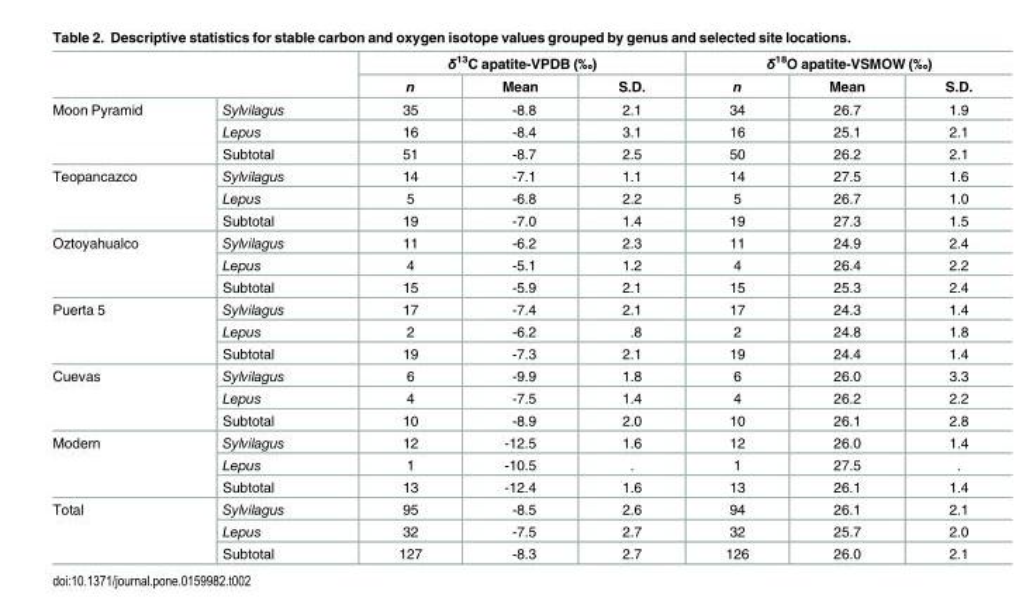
<table><thead><tr><td rowspan="2"></td><td rowspan="2"></td><td colspan="3">δ<sup>13</sup>C apatite-VPDB (‰)</td><td colspan="3">δ<sup>18</sup>O apatite-VSMOW (‰)</td></tr><tr><td>n</td><td>Mean</td><td>S.D.</td><td>n</td><td>Mean</td><td>S.D.</td></tr></thead><tbody><tr><td rowspan="3">Moon Pyramid</td><td>Sylvilagus</td><td>35</td><td>-8.8</td><td>2.1</td><td>34</td><td>26.7</td><td>1.9</td></tr><tr><td>Lepus</td><td>16</td><td>-8.4</td><td>3.1</td><td>16</td><td>25.1</td><td>2.1</td></tr><tr><td>Subtotal</td><td>51</td><td>-8.7</td><td>2.5</td><td>50</td><td>26.2</td><td>2.1</td></tr><tr><td rowspan="3">Teopancazco</td><td>Sylvilagus</td><td>14</td><td>-7.1</td><td>1.1</td><td>14</td><td>27.5</td><td>1.6</td></tr><tr><td>Lepus</td><td>5</td><td>-6.8</td><td>2.2</td><td>5</td><td>26.7</td><td>1.0</td></tr><tr><td>Subtotal</td><td>19</td><td>-7.0</td><td>1.4</td><td>19</td><td>27.3</td><td>1.5</td></tr><tr><td rowspan="3">Oztoyahualco</td><td>Sylvilagus</td><td>11</td><td>-6.2</td><td>2.3</td><td>11</td><td>24.9</td><td>2.4</td></tr><tr><td>Lepus</td><td>4</td><td>-5.1</td><td>1.2</td><td>4</td><td>26.4</td><td>2.2</td></tr><tr><td>Subtotal</td><td>15</td><td>-5.9</td><td>2.1</td><td>15</td><td>25.3</td><td>2.4</td></tr><tr><td rowspan="3">Puerta 5</td><td>Sylvilagus</td><td>17</td><td>-7.4</td><td>2.1</td><td>17</td><td>24.3</td><td>1.4</td></tr><tr><td>Lepus</td><td>2</td><td>-6.2</td><td>.8</td><td>2</td><td>24.8</td><td>1.8</td></tr><tr><td>Subtotal</td><td>19</td><td>-7.3</td><td>2.1</td><td>19</td><td>24.4</td><td>1.4</td></tr><tr><td rowspan="3">Cuevas</td><td>Sylvilagus</td><td>6</td><td>-9.9</td><td>1.8</td><td>6</td><td>26.0</td><td>3.3</td></tr><tr><td>Lepus</td><td>4</td><td>-7.5</td><td>1.4</td><td>4</td><td>26.2</td><td>2.2</td></tr><tr><td>Subtotal</td><td>10</td><td>-8.9</td><td>2.0</td><td>10</td><td>26.1</td><td>2.8</td></tr><tr><td rowspan="3">Modern</td><td>Sylvilagus</td><td>12</td><td>-12.5</td><td>1.6</td><td>12</td><td>26.0</td><td>1.4</td></tr><tr><td>Lepus</td><td>1</td><td>-10.5</td><td>.</td><td>1</td><td>27.5</td><td>.</td></tr><tr><td>Subtotal</td><td>13</td><td>-12.4</td><td>1.6</td><td>13</td><td>26.1</td><td>1.4</td></tr><tr><td rowspan="3">Total</td><td>Sylvilagus</td><td>95</td><td>-8.5</td><td>2.6</td><td>94</td><td>26.1</td><td>2.1</td></tr><tr><td>Lepus</td><td>32</td><td>-7.5</td><td>2.7</td><td>32</td><td>25.7</td><td>2.0</td></tr><tr><td>Subtotal</td><td>127</td><td>-8.3</td><td>2.7</td><td>126</td><td>26.0</td><td>2.1</td></tr></tbody></table>